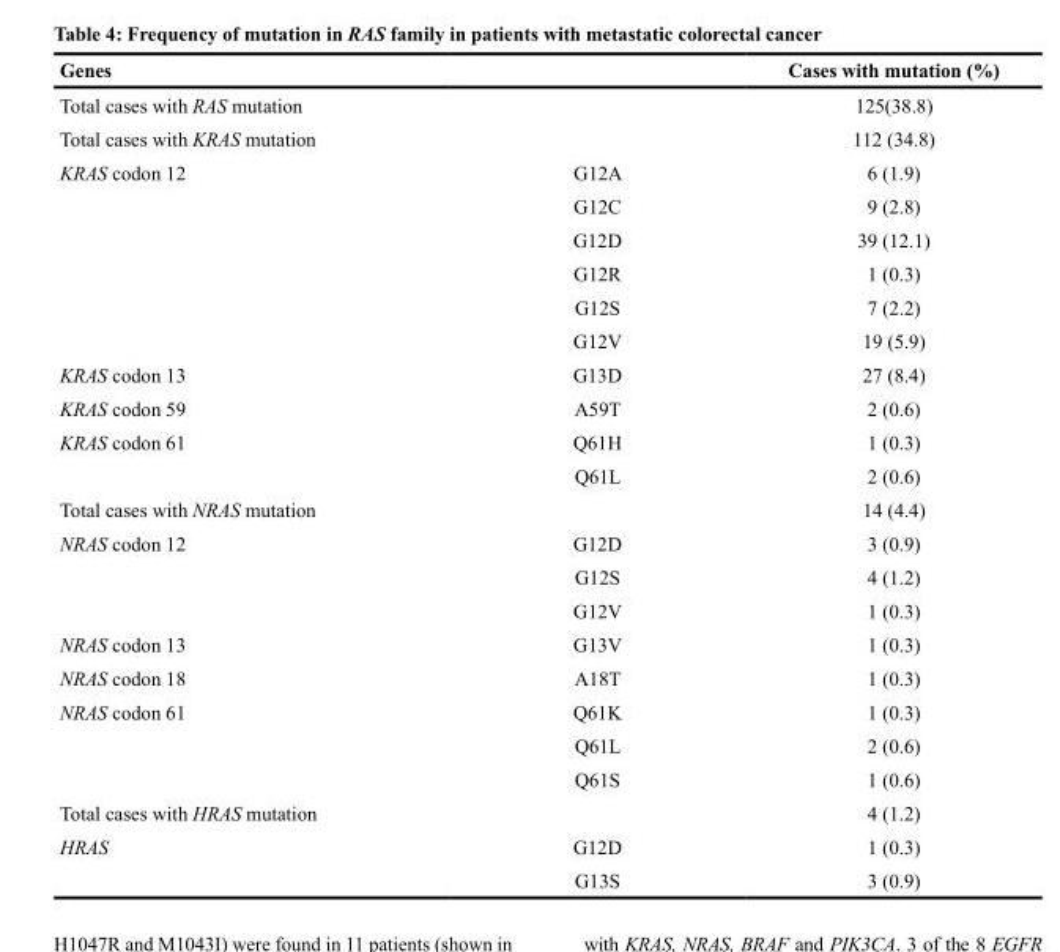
<table><thead><tr><td>Genes</td><td></td><td>Cases with mutation (%)</td></tr></thead><tbody><tr><td>Total cases with RAS mutation</td><td></td><td>125(38.8)</td></tr><tr><td>Total cases with KRAS mutation</td><td></td><td>112 (34.8)</td></tr><tr><td rowspan="6">KRAS codon 12</td><td>G12A</td><td>6 (1.9)</td></tr><tr><td>G12C</td><td>9 (2.8)</td></tr><tr><td>G12D</td><td>39 (12.1)</td></tr><tr><td>G12R</td><td>1 (0.3)</td></tr><tr><td>G12S</td><td>7 (2.2)</td></tr><tr><td>G12V</td><td>19 (5.9)</td></tr><tr><td>KRAS codon 13</td><td>G13D</td><td>27 (8.4)</td></tr><tr><td>KRAS codon 59</td><td>A59T</td><td>2 (0.6)</td></tr><tr><td rowspan="2">KRAS codon 61</td><td>Q61H</td><td>1 (0.3)</td></tr><tr><td>Q61L</td><td>2 (0.6)</td></tr><tr><td>Total cases with NRAS mutation</td><td></td><td>14 (4.4)</td></tr><tr><td rowspan="3">NRAS codon 12</td><td>G12D</td><td>3 (0.9)</td></tr><tr><td>G12S</td><td>4 (1.2)</td></tr><tr><td>G12V</td><td>1 (0.3)</td></tr><tr><td>NRAS codon 13</td><td>G13V</td><td>1 (0.3)</td></tr><tr><td>NRAS codon 18</td><td>A18T</td><td>1 (0.3)</td></tr><tr><td rowspan="3">NRAS codon 61</td><td>Q61K</td><td>1 (0.3)</td></tr><tr><td>Q61L</td><td>2 (0.6)</td></tr><tr><td>Q61S</td><td>1 (0.6)</td></tr><tr><td>Total cases with HRAS mutation</td><td></td><td>4 (1.2)</td></tr><tr><td rowspan="2">HRAS</td><td>G12D</td><td>1 (0.3)</td></tr><tr><td>G13S</td><td>3 (0.9)</td></tr></tbody></table>